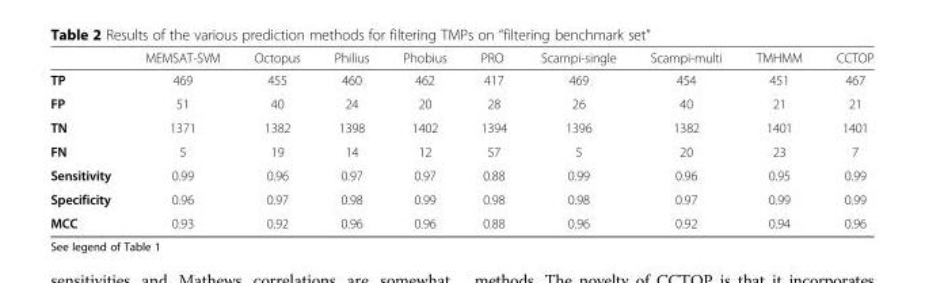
<table><thead><tr><td></td><td>MEMSAT-SVM</td><td>Octopus</td><td>Philius</td><td>Phobius</td><td>PRO</td><td>Scampi-single</td><td>Scampi-multi</td><td>TMHMM</td><td>CCTOP</td></tr></thead><tbody><tr><td>TP</td><td>469</td><td>455</td><td>460</td><td>462</td><td>417</td><td>469</td><td>454</td><td>451</td><td>467</td></tr><tr><td>FP</td><td>51</td><td>40</td><td>24</td><td>20</td><td>28</td><td>26</td><td>40</td><td>21</td><td>21</td></tr><tr><td>TN</td><td>1371</td><td>1382</td><td>1398</td><td>1402</td><td>1394</td><td>1396</td><td>1382</td><td>1401</td><td>1401</td></tr><tr><td>FN</td><td>5</td><td>19</td><td>14</td><td>12</td><td>57</td><td>5</td><td>20</td><td>23</td><td>7</td></tr><tr><td>Sensitivity</td><td>0.99</td><td>0.96</td><td>0.97</td><td>0.97</td><td>0.88</td><td>0.99</td><td>0.96</td><td>0.95</td><td>0.99</td></tr><tr><td>Specificity</td><td>0.96</td><td>0.97</td><td>0.98</td><td>0.99</td><td>0.98</td><td>0.98</td><td>0.97</td><td>0.99</td><td>0.99</td></tr><tr><td>MCC</td><td>0.93</td><td>0.92</td><td>0.96</td><td>0.96</td><td>0.88</td><td>0.96</td><td>0.92</td><td>0.94</td><td>0.96</td></tr></tbody></table>